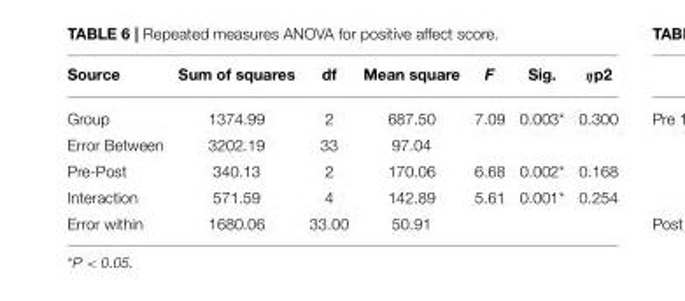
<table><thead><tr><td>Source</td><td>Sum of squares</td><td>df</td><td>Mean square</td><td>F</td><td>Sig.</td><td>ηp2</td></tr></thead><tbody><tr><td>Group</td><td>1374.99</td><td>2</td><td>687.50</td><td>7.09</td><td>0.003*</td><td>0.300</td></tr><tr><td>Error Between</td><td>3202.19</td><td>33</td><td>97.04</td><td></td><td></td><td></td></tr><tr><td>Pre-Post</td><td>340.13</td><td>2</td><td>170.06</td><td>6.68</td><td>0.002*</td><td>0.168</td></tr><tr><td>Interaction</td><td>571.59</td><td>4</td><td>142.89</td><td>5.61</td><td>0.001*</td><td>0.254</td></tr><tr><td>Error within</td><td>1680.06</td><td>33.00</td><td>50.91</td><td></td><td></td><td></td></tr></tbody></table>